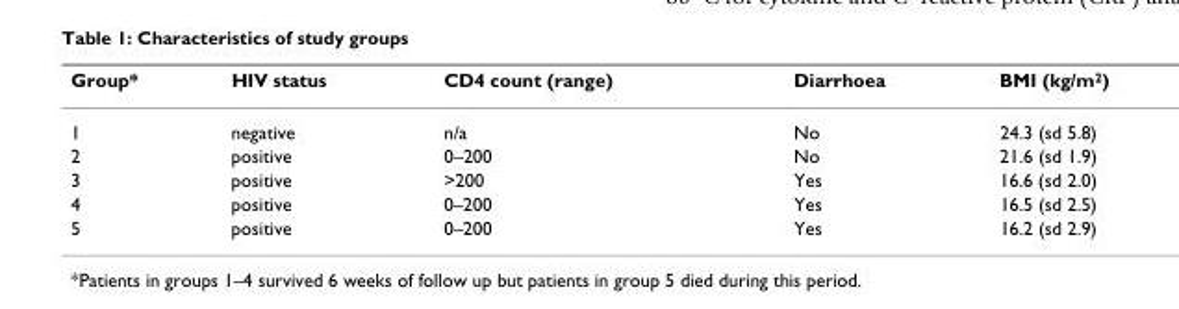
<table><thead><tr><td>Group*</td><td>HIV status</td><td>CD4 count (range)</td><td>Diarrhoea</td><td>BMI (kg/m<sup>2</sup>)</td></tr></thead><tbody><tr><td>1</td><td>negative</td><td>n/a</td><td>No</td><td>24.3 (sd 5.8)</td></tr><tr><td>2</td><td>positive</td><td>0–200</td><td>No</td><td>21.6 (sd 1.9)</td></tr><tr><td>3</td><td>positive</td><td>&gt;200</td><td>Yes</td><td>16.6 (sd 2.0)</td></tr><tr><td>4</td><td>positive</td><td>0–200</td><td>Yes</td><td>16.5 (sd 2.5)</td></tr><tr><td>5</td><td>positive</td><td>0–200</td><td>Yes</td><td>16.2 (sd 2.9)</td></tr></tbody></table>